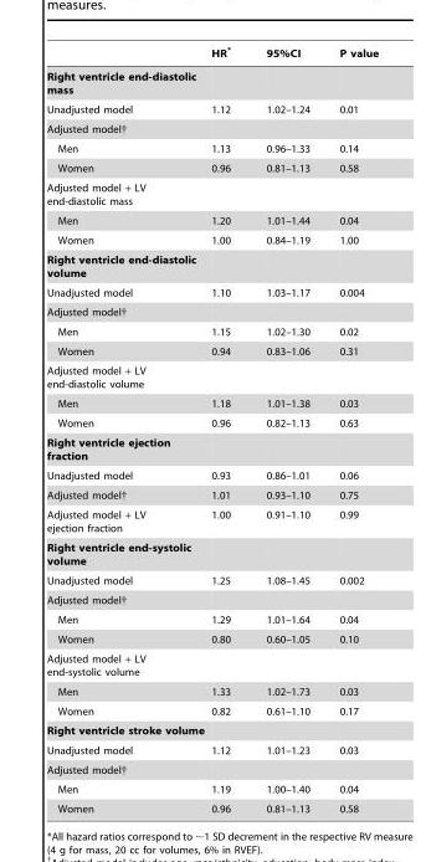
<table><thead><tr><td></td><td>HR*</td><td>95%CI</td><td>P value</td></tr></thead><tbody><tr><td colspan="4">Right ventricle end-diastolic mass</td></tr><tr><td>Unadjusted model</td><td>1.12</td><td>1.02–1.24</td><td>0.01</td></tr><tr><td colspan="4">Adjusted model†</td></tr><tr><td>Men</td><td>1.13</td><td>0.96–1.33</td><td>0.14</td></tr><tr><td>Women</td><td>0.96</td><td>0.81–1.13</td><td>0.58</td></tr><tr><td colspan="4">Adjusted model + LV end-diastolic mass</td></tr><tr><td>Men</td><td>1.20</td><td>1.01–1.44</td><td>0.04</td></tr><tr><td>Women</td><td>1.00</td><td>0.84–1.19</td><td>1.00</td></tr><tr><td colspan="4">Right ventricle end-diastolic volume</td></tr><tr><td>Unadjusted model</td><td>1.10</td><td>1.03–1.17</td><td>0.004</td></tr><tr><td colspan="4">Adjusted model†</td></tr><tr><td>Men</td><td>1.15</td><td>1.02–1.30</td><td>0.02</td></tr><tr><td>Women</td><td>0.94</td><td>0.83–1.06</td><td>0.31</td></tr><tr><td colspan="4">Adjusted model + LV end-diastolic volume</td></tr><tr><td>Men</td><td>1.18</td><td>1.01–1.38</td><td>0.03</td></tr><tr><td>Women</td><td>0.96</td><td>0.82–1.13</td><td>0.63</td></tr><tr><td colspan="4">Right ventricle ejection fraction</td></tr><tr><td>Unadjusted model</td><td>0.93</td><td>0.86–1.01</td><td>0.06</td></tr><tr><td>Adjusted model†</td><td>1.01</td><td>0.93–1.10</td><td>0.75</td></tr><tr><td>Adjusted model + LV ejection fraction</td><td>1.00</td><td>0.91–1.10</td><td>0.99</td></tr><tr><td colspan="4">Right ventricle end-systolic volume</td></tr><tr><td>Unadjusted model</td><td>1.25</td><td>1.08–1.45</td><td>0.002</td></tr><tr><td colspan="4">Adjusted model†</td></tr><tr><td>Men</td><td>1.29</td><td>1.01–1.64</td><td>0.04</td></tr><tr><td>Women</td><td>0.80</td><td>0.60–1.05</td><td>0.10</td></tr><tr><td colspan="4">Adjusted model + LV end-systolic volume</td></tr><tr><td>Men</td><td>1.33</td><td>1.02–1.73</td><td>0.03</td></tr><tr><td>Women</td><td>0.82</td><td>0.61–1.10</td><td>0.17</td></tr><tr><td colspan="4">Right ventricle stroke volume</td></tr><tr><td>Unadjusted model</td><td>1.12</td><td>1.01–1.23</td><td>0.03</td></tr><tr><td colspan="4">Adjusted model†</td></tr><tr><td>Men</td><td>1.19</td><td>1.00–1.40</td><td>0.04</td></tr><tr><td>Women</td><td>0.96</td><td>0.81–1.13</td><td>0.58</td></tr></tbody></table>